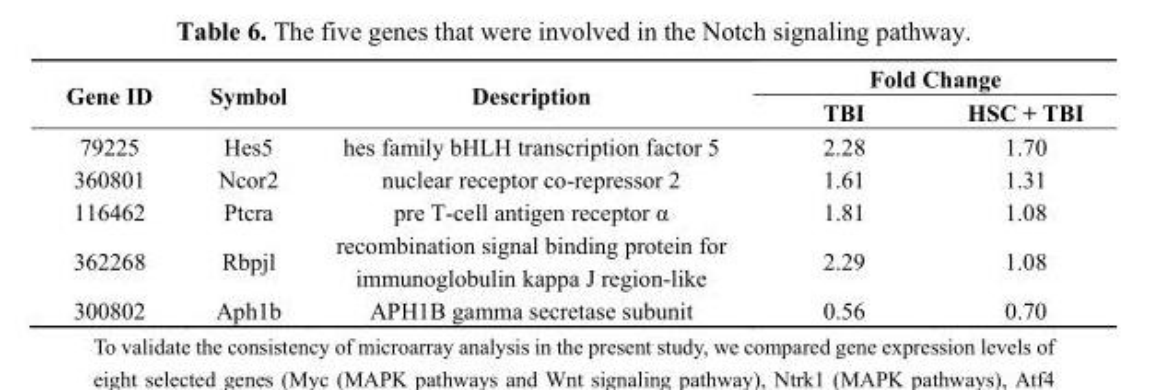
<table><thead><tr><td rowspan="2">Gene ID</td><td rowspan="2">Symbol</td><td rowspan="2">Description</td><td colspan="2">Fold Change</td></tr><tr><td>TBI</td><td>HSC + TBI</td></tr></thead><tbody><tr><td>79225</td><td>Hes5</td><td>hes family bHLH transcription factor 5</td><td>2.28</td><td>1.70</td></tr><tr><td>360801</td><td>Ncor2</td><td>nuclear receptor co-repressor 2</td><td>1.61</td><td>1.31</td></tr><tr><td>116462</td><td>Ptcra</td><td>pre T-cell antigen receptor α</td><td>1.81</td><td>1.08</td></tr><tr><td>362268</td><td>Rbpjl</td><td>recombination signal binding protein for immunoglobulin kappa J region-like</td><td>2.29</td><td>1.08</td></tr><tr><td>300802</td><td>Aph1b</td><td>APH1B gamma secretase subunit</td><td>0.56</td><td>0.70</td></tr></tbody></table>